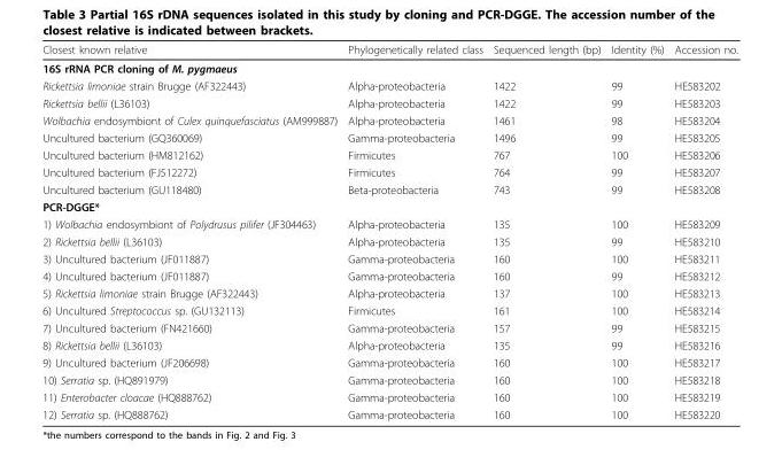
<table><thead><tr><td>Closest known relative</td><td>Phylogenetically related class</td><td>Sequenced length (bp)</td><td>Identity (%)</td><td>Accession no.</td></tr></thead><tbody><tr><td colspan="5">16S rRNA PCR cloning of M. pygmaeus</td></tr><tr><td>Rickettsia limoniae strain Brugge (AF322443)</td><td>Alpha-proteobacteria</td><td>1422</td><td>99</td><td>HE583202</td></tr><tr><td>Rickettsia bellii (L36103)</td><td>Alpha-proteobacteria</td><td>1422</td><td>99</td><td>HE583203</td></tr><tr><td>Wolbachia endosymbiont of Culex quinquefasciatus (AM999887)</td><td>Alpha-proteobacteria</td><td>1461</td><td>98</td><td>HE583204</td></tr><tr><td>Uncultured bacterium (GQ360069)</td><td>Gamma-proteobacteria</td><td>1496</td><td>99</td><td>HE583205</td></tr><tr><td>Uncultured bacterium (HM812162)</td><td>Firmicutes</td><td>767</td><td>100</td><td>HE583206</td></tr><tr><td>Uncultured bacterium (FJ512272)</td><td>Firmicutes</td><td>764</td><td>99</td><td>HE583207</td></tr><tr><td>Uncultured bacterium (GU118480)</td><td>Beta-proteobacteria</td><td>743</td><td>99</td><td>HE583208</td></tr><tr><td colspan="5">PCR-DGGE*</td></tr><tr><td>1) Wolbachia endosymbiont of Polydrusus pilifer (JF304463)</td><td>Alpha-proteobacteria</td><td>135</td><td>100</td><td>HE583209</td></tr><tr><td>2) Rickettsia bellii (L36103)</td><td>Alpha-proteobacteria</td><td>135</td><td>99</td><td>HE583210</td></tr><tr><td>3) Uncultured bacterium (JF011887)</td><td>Gamma-proteobacteria</td><td>160</td><td>100</td><td>HE583211</td></tr><tr><td>4) Uncultured bacterium (JF011887)</td><td>Gamma-proteobacteria</td><td>160</td><td>99</td><td>HE583212</td></tr><tr><td>5) Rickettsia limoniae strain Brugge (AF322443)</td><td>Alpha-proteobacteria</td><td>137</td><td>100</td><td>HE583213</td></tr><tr><td>6) Uncultured Streptococcus sp. (GU132113)</td><td>Firmicutes</td><td>161</td><td>100</td><td>HE583214</td></tr><tr><td>7) Uncultured bacterium (FN421660)</td><td>Gamma-proteobacteria</td><td>157</td><td>99</td><td>HE583215</td></tr><tr><td>8) Rickettsia bellii (L36103)</td><td>Alpha-proteobacteria</td><td>135</td><td>99</td><td>HE583216</td></tr><tr><td>9) Uncultured bacterium (JF206698)</td><td>Gamma-proteobacteria</td><td>160</td><td>100</td><td>HE583217</td></tr><tr><td>10) Serratia sp. (HQ891979)</td><td>Gamma-proteobacteria</td><td>160</td><td>100</td><td>HE583218</td></tr><tr><td>11) Enterobacter cloacae (HQ888762)</td><td>Gamma-proteobacteria</td><td>160</td><td>100</td><td>HE583219</td></tr><tr><td>12) Serratia sp. (HQ888762)</td><td>Gamma-proteobacteria</td><td>160</td><td>100</td><td>HE583220</td></tr></tbody></table>